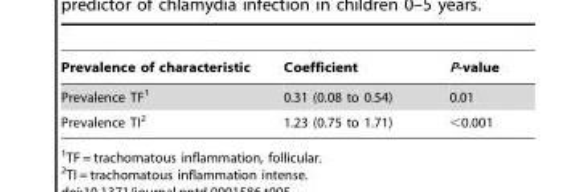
<table><thead><tr><td>Prevalence of characteristic</td><td>Coefficient</td><td>P-value</td></tr></thead><tbody><tr><td>Prevalence TF<sup>1</sup></td><td>0.31 (0.08 to 0.54)</td><td>0.01</td></tr><tr><td>Prevalence TI<sup>2</sup></td><td>1.23 (0.75 to 1.71)</td><td>&lt;0.001</td></tr></tbody></table>